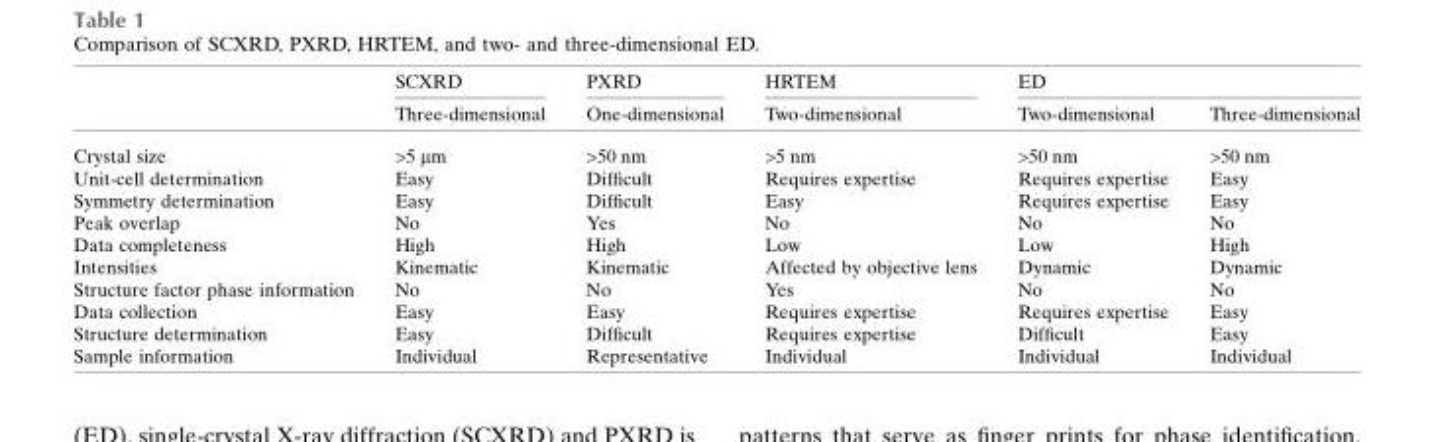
<table><thead><tr><td rowspan="2"></td><td rowspan="2">SCXRD Three-dimensional</td><td rowspan="2">PXRD One-dimensional</td><td rowspan="2">HRTEM Two-dimensional</td><td colspan="2">ED</td></tr><tr><td>Two-dimensional</td><td>Three-dimensional</td></tr></thead><tbody><tr><td>Crystal size</td><td>&gt;5 mm</td><td>&gt;50 nm</td><td>&gt;5 nm</td><td>&gt;50 nm</td><td>&gt;50 nm</td></tr><tr><td>Unit-cell determination</td><td>Easy</td><td>Difficult</td><td>Requires expertise</td><td>Requires expertise</td><td>Easy</td></tr><tr><td>Symmetry determination</td><td>Easy</td><td>Difficult</td><td>Easy</td><td>Requires expertise</td><td>Easy</td></tr><tr><td>Peak overlap</td><td>No</td><td>Yes</td><td>No</td><td>No</td><td>No</td></tr><tr><td>Data completeness</td><td>High</td><td>High</td><td>Low</td><td>Low</td><td>High</td></tr><tr><td>Intensities</td><td>Kinematic</td><td>Kinematic</td><td>Affected by objective lens</td><td>Dynamic</td><td>Dynamic</td></tr><tr><td>Structure factor phase information</td><td>No</td><td>No</td><td>Yes</td><td>No</td><td>No</td></tr><tr><td>Data collection</td><td>Easy</td><td>Easy</td><td>Requires expertise</td><td>Requires expertise</td><td>Easy</td></tr><tr><td>Structure determination</td><td>Easy</td><td>Difficult</td><td>Requires expertise</td><td>Difficult</td><td>Easy</td></tr><tr><td>Sample information</td><td>Individual</td><td>Representative</td><td>Individual</td><td>Individual</td><td>Individual</td></tr></tbody></table>